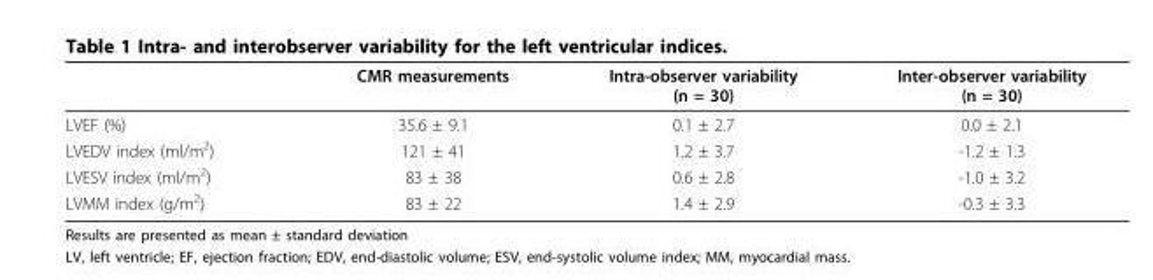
<table><thead><tr><td></td><td>CMR measurements</td><td>Intra-observer variability (n = 30)</td><td>Inter-observer variability (n = 30)</td></tr></thead><tbody><tr><td>LVEF (%)</td><td>35.6 ± 9.1</td><td>0.1 ± 2.7</td><td>0.0 ± 2.1</td></tr><tr><td>LVEDV index (ml/m<sup>2</sup>)</td><td>121 ± 41</td><td>1.2 ± 3.7</td><td>-1.2 ± 1.3</td></tr><tr><td>LVESV index (ml/m<sup>2</sup>)</td><td>83 ± 38</td><td>0.6 ± 2.8</td><td>-1.0 ± 3.2</td></tr><tr><td>LVMM index (g/m<sup>2</sup>)</td><td>83 ± 22</td><td>1.4 ± 2.9</td><td>-0.3 ± 3.3</td></tr></tbody></table>